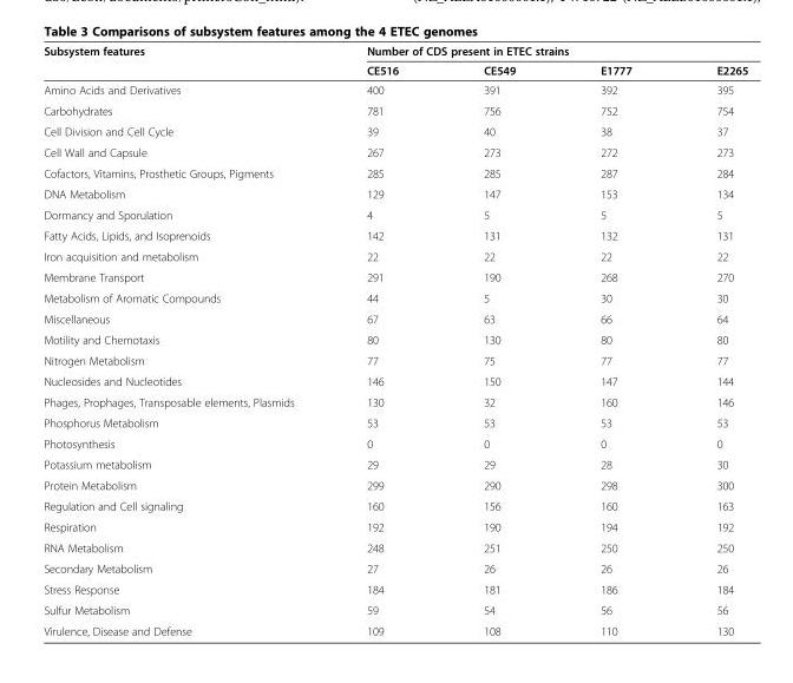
<table><thead><tr><td rowspan="2">Subsystem features</td><td colspan="4">Number of CDS present in ETEC strains</td></tr><tr><td>CE516</td><td>CE549</td><td>E1777</td><td>E2265</td></tr></thead><tbody><tr><td>Amino Acids and Derivatives</td><td>400</td><td>391</td><td>392</td><td>395</td></tr><tr><td>Carbohydrates</td><td>781</td><td>756</td><td>752</td><td>754</td></tr><tr><td>Cell Division and Cell Cycle</td><td>39</td><td>40</td><td>38</td><td>37</td></tr><tr><td>Cell Wall and Capsule</td><td>267</td><td>273</td><td>272</td><td>273</td></tr><tr><td>Cofactors, Vitamins, Prosthetic Groups, Pigments</td><td>285</td><td>285</td><td>287</td><td>284</td></tr><tr><td>DNA Metabolism</td><td>129</td><td>147</td><td>153</td><td>134</td></tr><tr><td>Dormancy and Sporulation</td><td>4</td><td>5</td><td>5</td><td>5</td></tr><tr><td>Fatty Acids, Lipids, and Isoprenoids</td><td>142</td><td>131</td><td>132</td><td>131</td></tr><tr><td>Iron acquisition and metabolism</td><td>22</td><td>22</td><td>22</td><td>22</td></tr><tr><td>Membrane Transport</td><td>291</td><td>190</td><td>268</td><td>270</td></tr><tr><td>Metabolism of Aromatic Compounds</td><td>44</td><td>5</td><td>30</td><td>30</td></tr><tr><td>Miscellaneous</td><td>67</td><td>63</td><td>66</td><td>64</td></tr><tr><td>Motility and Chemotaxis</td><td>80</td><td>130</td><td>80</td><td>80</td></tr><tr><td>Nitrogen Metabolism</td><td>77</td><td>75</td><td>77</td><td>77</td></tr><tr><td>Nucleosides and Nucleotides</td><td>146</td><td>150</td><td>147</td><td>144</td></tr><tr><td>Phages, Prophages, Transposable elements, Plasmids</td><td>130</td><td>32</td><td>160</td><td>146</td></tr><tr><td>Phosphorus Metabolism</td><td>53</td><td>53</td><td>53</td><td>53</td></tr><tr><td>Photosynthesis</td><td>0</td><td>0</td><td>0</td><td>0</td></tr><tr><td>Potassium metabolism</td><td>29</td><td>29</td><td>28</td><td>30</td></tr><tr><td>Protein Metabolism</td><td>299</td><td>290</td><td>298</td><td>300</td></tr><tr><td>Regulation and Cell signaling</td><td>160</td><td>156</td><td>160</td><td>163</td></tr><tr><td>Respiration</td><td>192</td><td>190</td><td>194</td><td>192</td></tr><tr><td>RNA Metabolism</td><td>248</td><td>251</td><td>250</td><td>250</td></tr><tr><td>Secondary Metabolism</td><td>27</td><td>26</td><td>26</td><td>26</td></tr><tr><td>Stress Response</td><td>184</td><td>181</td><td>186</td><td>184</td></tr><tr><td>Sulfur Metabolism</td><td>59</td><td>54</td><td>56</td><td>56</td></tr><tr><td>Virulence, Disease and Defense</td><td>109</td><td>108</td><td>110</td><td>130</td></tr></tbody></table>